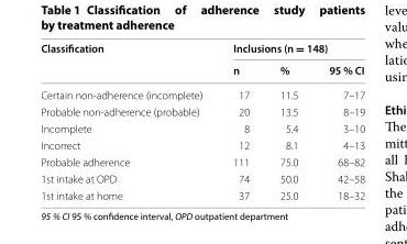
<table><thead><tr><td rowspan="2">Classification</td><td colspan="3">Inclusions (n = 148)</td></tr><tr><td>n</td><td>%</td><td>95 % CI</td></tr></thead><tbody><tr><td>Certain non-adherence (incomplete)</td><td>17</td><td>11.5</td><td>7–17</td></tr><tr><td>Probable non-adherence (probable)</td><td>20</td><td>13.5</td><td>8–19</td></tr><tr><td>Incomplete</td><td>8</td><td>5.4</td><td>3–10</td></tr><tr><td>Incorrect</td><td>12</td><td>8.1</td><td>4–13</td></tr><tr><td>Probable adherence</td><td>111</td><td>75.0</td><td>68–82</td></tr><tr><td>1st intake at OPD</td><td>74</td><td>50.0</td><td>42–58</td></tr><tr><td>1st intake at home</td><td>37</td><td>25.0</td><td>18–32</td></tr></tbody></table>